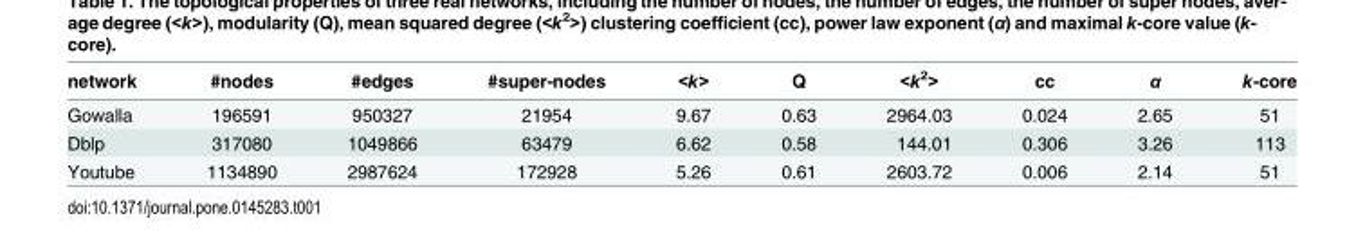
<table><thead><tr><td>network</td><td>#nodes</td><td>#edges</td><td>#super-nodes</td><td>&lt;k&gt;</td><td>Q</td><td>&lt;k<sup>2</sup>&gt;</td><td>cc</td><td>α</td><td>k-core</td></tr></thead><tbody><tr><td>Gowalla</td><td>196591</td><td>950327</td><td>21954</td><td>9.67</td><td>0.63</td><td>2964.03</td><td>0.024</td><td>2.65</td><td>51</td></tr><tr><td>Dblp</td><td>317080</td><td>1049866</td><td>63479</td><td>6.62</td><td>0.58</td><td>144.01</td><td>0.306</td><td>3.26</td><td>113</td></tr><tr><td>Youtube</td><td>1134890</td><td>2987624</td><td>172928</td><td>5.26</td><td>0.61</td><td>2603.72</td><td>0.006</td><td>2.14</td><td>51</td></tr></tbody></table>